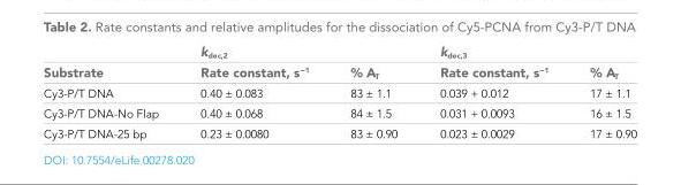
<table><thead><tr><td rowspan="2">Substrate</td><td colspan="2">k<sub>dec,2</sub></td><td colspan="2">k<sub>dec,3</sub></td></tr><tr><td>Rate constant, s<sup>−1</sup></td><td>% A<sub>T</sub></td><td>Rate constant, s<sup>−1</sup></td><td>% A<sub>T</sub></td></tr></thead><tbody><tr><td>Cy3-P/T DNA</td><td>0.40 ± 0.083</td><td>83 ± 1.1</td><td>0.039 + 0.012</td><td>17 ± 1.1</td></tr><tr><td>Cy3-P/T DNA-No Flap</td><td>0.40 ± 0.068</td><td>84 ± 1.5</td><td>0.031 + 0.0093</td><td>16 ± 1.5</td></tr><tr><td>Cy3-P/T DNA-25 bp</td><td>0.23 ± 0.0080</td><td>83 ± 0.90</td><td>0.023 ± 0.0029</td><td>17 ± 0.90</td></tr></tbody></table>